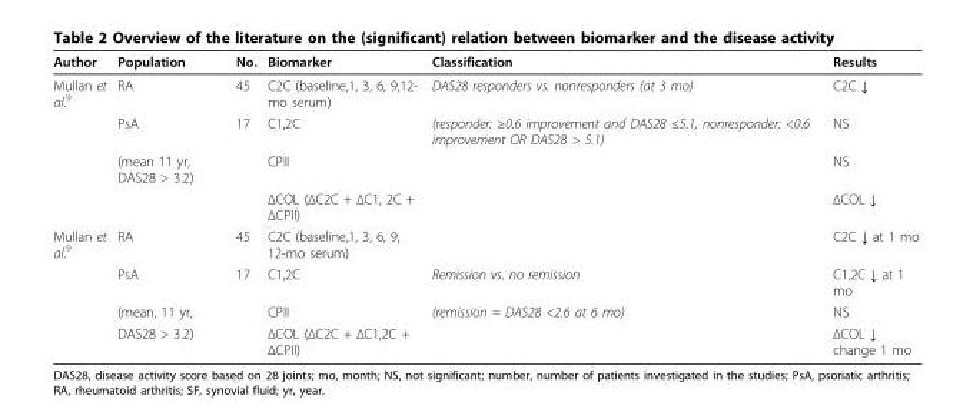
<table><thead><tr><td>Author</td><td>Population</td><td>No.</td><td>Biomarker</td><td>Classification</td><td>Results</td></tr></thead><tbody><tr><td rowspan="4">Mullan et al.<sup>9</sup></td><td>RA</td><td>45</td><td>C2C (baseline,1, 3, 6, 9,12- mo serum)</td><td>DAS28 responders vs. nonresponders (at 3 mo)</td><td>C2C ↓</td></tr><tr><td>PsA</td><td>17</td><td>C1,2C</td><td>(responder: ≥0.6 improvement and DAS28 ≤5.1, nonresponder: &lt;0.6 improvement OR DAS28 &gt; 5.1)</td><td>NS</td></tr><tr><td>(mean 11 yr, DAS28 &gt; 3.2)</td><td></td><td>CPII</td><td></td><td>NS</td></tr><tr><td></td><td></td><td>ΔCOL (ΔC2C + ΔC1, 2C + ΔCPII)</td><td></td><td>ΔCOL ↓</td></tr><tr><td rowspan="4">Mullan et al.<sup>9</sup></td><td>RA</td><td>45</td><td>C2C (baseline,1, 3, 6, 9, 12-mo serum)</td><td></td><td>C2C ↓ at 1 mo</td></tr><tr><td>PsA</td><td>17</td><td>C1,2C</td><td>Remission vs. no remission</td><td>C1,2C ↓ at 1 mo</td></tr><tr><td>(mean, 11 yr,</td><td></td><td>CPII</td><td>(remission = DAS28 &lt;2.6 at 6 mo)</td><td>NS</td></tr><tr><td>DAS28 &gt; 3.2)</td><td></td><td>ΔCOL (ΔC2C + ΔC1,2C + ΔCPII)</td><td></td><td>ΔCOL ↓ change 1 mo</td></tr></tbody></table>